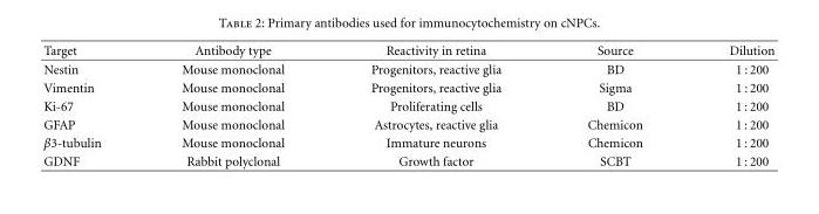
<table><thead><tr><td>Target</td><td>Antibody type</td><td>Reactivity in retina</td><td>Source</td><td>Dilution</td></tr></thead><tbody><tr><td>Nestin</td><td>Mouse monoclonal</td><td>Progenitors, reactive glia</td><td>BD</td><td>1 : 200</td></tr><tr><td>Vimentin</td><td>Mouse monoclonal</td><td>Progenitors, reactive glia</td><td>Sigma</td><td>1 : 200</td></tr><tr><td>Ki-67</td><td>Mouse monoclonal</td><td>Proliferating cells</td><td>BD</td><td>1 : 200</td></tr><tr><td>GFAP</td><td>Mouse monoclonal</td><td>Astrocytes, reactive glia</td><td>Chemicon</td><td>1 : 200</td></tr><tr><td>β3-tubulin</td><td>Mouse monoclonal</td><td>Immature neurons</td><td>Chemicon</td><td>1 : 200</td></tr><tr><td>GDNF</td><td>Rabbit polyclonal</td><td>Growth factor</td><td>SCBT</td><td>1 : 200</td></tr></tbody></table>